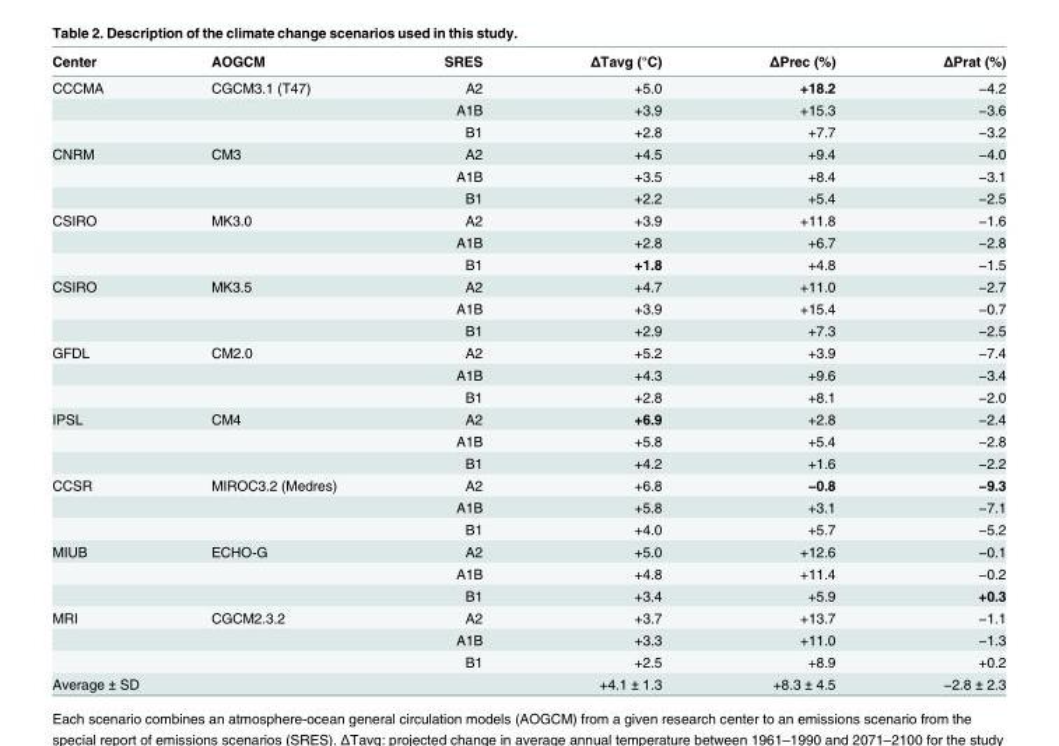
<table><thead><tr><td>Center</td><td>AOGCM</td><td>SRES</td><td>ΔTavg (°C)</td><td>ΔPrec (%)</td><td>ΔPrat (%)</td></tr></thead><tbody><tr><td rowspan="3">CCCMA</td><td>CGCM3.1 (T47)</td><td>A2</td><td>+5.0</td><td>+18.2</td><td>−4.2</td></tr><tr><td></td><td>A1B</td><td>+3.9</td><td>+15.3</td><td>−3.6</td></tr><tr><td></td><td>B1</td><td>+2.8</td><td>+7.7</td><td>−3.2</td></tr><tr><td rowspan="3">CNRM</td><td>CM3</td><td>A2</td><td>+4.5</td><td>+9.4</td><td>−4.0</td></tr><tr><td></td><td>A1B</td><td>+3.5</td><td>+8.4</td><td>−3.1</td></tr><tr><td></td><td>B1</td><td>+2.2</td><td>+5.4</td><td>−2.5</td></tr><tr><td rowspan="3">CSIRO</td><td>MK3.0</td><td>A2</td><td>+3.9</td><td>+11.8</td><td>−1.6</td></tr><tr><td></td><td>A1B</td><td>+2.8</td><td>+6.7</td><td>−2.8</td></tr><tr><td></td><td>B1</td><td>+1.8</td><td>+4.8</td><td>−1.5</td></tr><tr><td rowspan="3">CSIRO</td><td>MK3.5</td><td>A2</td><td>+4.7</td><td>+11.0</td><td>−2.7</td></tr><tr><td></td><td>A1B</td><td>+3.9</td><td>+15.4</td><td>−0.7</td></tr><tr><td></td><td>B1</td><td>+2.9</td><td>+7.3</td><td>−2.5</td></tr><tr><td rowspan="3">GFDL</td><td>CM2.0</td><td>A2</td><td>+5.2</td><td>+3.9</td><td>−7.4</td></tr><tr><td></td><td>A1B</td><td>+4.3</td><td>+9.6</td><td>−3.4</td></tr><tr><td></td><td>B1</td><td>+2.8</td><td>+8.1</td><td>−2.0</td></tr><tr><td rowspan="3">IPSL</td><td>CM4</td><td>A2</td><td>+6.9</td><td>+2.8</td><td>−2.4</td></tr><tr><td></td><td>A1B</td><td>+5.8</td><td>+5.4</td><td>−2.8</td></tr><tr><td></td><td>B1</td><td>+4.2</td><td>+1.6</td><td>−2.2</td></tr><tr><td rowspan="3">CCSR</td><td>MIROC3.2 (Medres)</td><td>A2</td><td>+6.8</td><td>−0.8</td><td>−9.3</td></tr><tr><td></td><td>A1B</td><td>+5.8</td><td>+3.1</td><td>−7.1</td></tr><tr><td></td><td>B1</td><td>+4.0</td><td>+5.7</td><td>−5.2</td></tr><tr><td rowspan="3">MIUB</td><td>ECHO-G</td><td>A2</td><td>+5.0</td><td>+12.6</td><td>−0.1</td></tr><tr><td></td><td>A1B</td><td>+4.8</td><td>+11.4</td><td>−0.2</td></tr><tr><td></td><td>B1</td><td>+3.4</td><td>+5.9</td><td>+0.3</td></tr><tr><td rowspan="3">MRI</td><td>CGCM2.3.2</td><td>A2</td><td>+3.7</td><td>+13.7</td><td>−1.1</td></tr><tr><td></td><td>A1B</td><td>+3.3</td><td>+11.0</td><td>−1.3</td></tr><tr><td></td><td>B1</td><td>+2.5</td><td>+8.9</td><td>+0.2</td></tr><tr><td colspan="3">Average ± SD</td><td>+4.1 ± 1.3</td><td>+8.3 ± 4.5</td><td>−2.8 ± 2.3</td></tr></tbody></table>